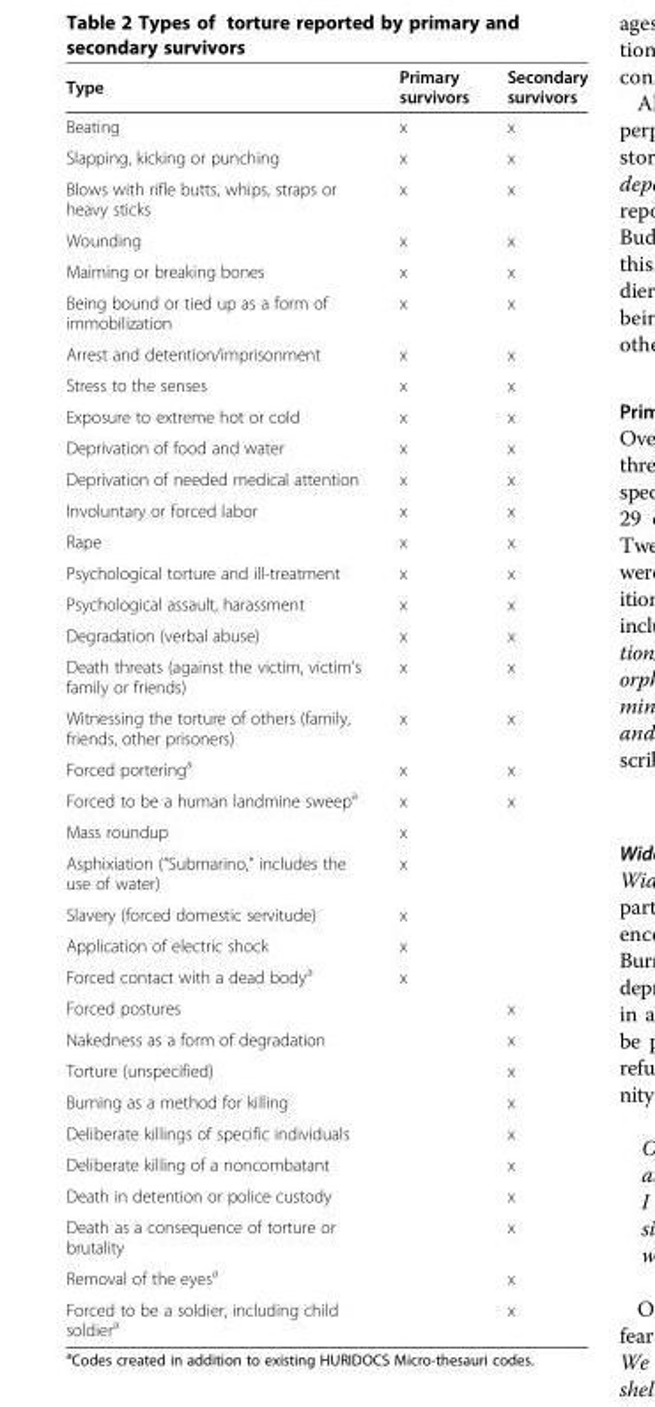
<table><thead><tr><td>Type</td><td>Primary survivors</td><td>Secondary survivors</td></tr></thead><tbody><tr><td>Beating</td><td>x</td><td>x</td></tr><tr><td>Slapping, kicking or punching</td><td>x</td><td>x</td></tr><tr><td>Blows with rifle butts, whips, straps or heavy sticks</td><td>x</td><td>x</td></tr><tr><td>Wounding</td><td>x</td><td>x</td></tr><tr><td>Maiming or breaking bones</td><td>x</td><td>x</td></tr><tr><td>Being bound or tied up as a form of immobilization</td><td>x</td><td>x</td></tr><tr><td>Arrest and detention/imprisonment</td><td>x</td><td>x</td></tr><tr><td>Stress to the senses</td><td>x</td><td>x</td></tr><tr><td>Exposure to extreme hot or cold</td><td>x</td><td>x</td></tr><tr><td>Deprivation of food and water</td><td>x</td><td>x</td></tr><tr><td>Deprivation of needed medical attention</td><td>x</td><td>x</td></tr><tr><td>Involuntary or forced labor</td><td>x</td><td>x</td></tr><tr><td>Rape</td><td>x</td><td>x</td></tr><tr><td>Psychological torture and ill-treatment</td><td>x</td><td>x</td></tr><tr><td>Psychological assault, harassment</td><td>x</td><td>x</td></tr><tr><td>Degradation (verbal abuse)</td><td>x</td><td>x</td></tr><tr><td>Death threats (against the victim, victim&#x27;s family or friends)</td><td>x</td><td>x</td></tr><tr><td>Witnessing the torture of others (family, friends, other prisoners)</td><td>x</td><td>x</td></tr><tr><td>Forced portering<sup>a</sup></td><td>x</td><td>x</td></tr><tr><td>Forced to be a human landmine sweep<sup>a</sup></td><td>x</td><td>x</td></tr><tr><td>Mass roundup</td><td>x</td><td></td></tr><tr><td>Asphixiation (“Submarino,” includes the use of water)</td><td>x</td><td></td></tr><tr><td>Slavery (forced domestic servitude)</td><td>x</td><td></td></tr><tr><td>Application of electric shock</td><td>x</td><td></td></tr><tr><td>Forced contact with a dead body<sup>a</sup></td><td>x</td><td></td></tr><tr><td>Forced postures</td><td></td><td>x</td></tr><tr><td>Nakedness as a form of degradation</td><td></td><td>x</td></tr><tr><td>Torture (unspecified)</td><td></td><td>x</td></tr><tr><td>Burning as a method for killing</td><td></td><td>x</td></tr><tr><td>Deliberate killings of specific individuals</td><td></td><td>x</td></tr><tr><td>Deliberate killing of a noncombatant</td><td></td><td>x</td></tr><tr><td>Death in detention or police custody</td><td></td><td>x</td></tr><tr><td>Death as a consequence of torture or brutality</td><td></td><td>x</td></tr><tr><td>Removal of the eyes<sup>a</sup></td><td></td><td>x</td></tr><tr><td>Forced to be a soldier, including child soldier<sup>a</sup></td><td></td><td>x</td></tr></tbody></table>